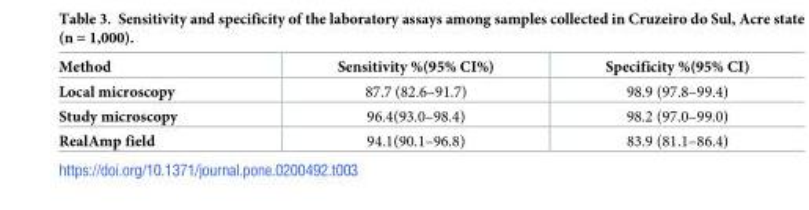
<table><thead><tr><td>Method</td><td>Sensitivity %(95% CI%)</td><td>Specificity %(95% CI)</td></tr></thead><tbody><tr><td>Local microscopy</td><td>87.7 (82.6–91.7)</td><td>98.9 (97.8–99.4)</td></tr><tr><td>Study microscopy</td><td>96.4(93.0–98.4)</td><td>98.2 (97.0–99.0)</td></tr><tr><td>RealAmp field</td><td>94.1(90.1–96.8)</td><td>83.9 (81.1–86.4)</td></tr></tbody></table>